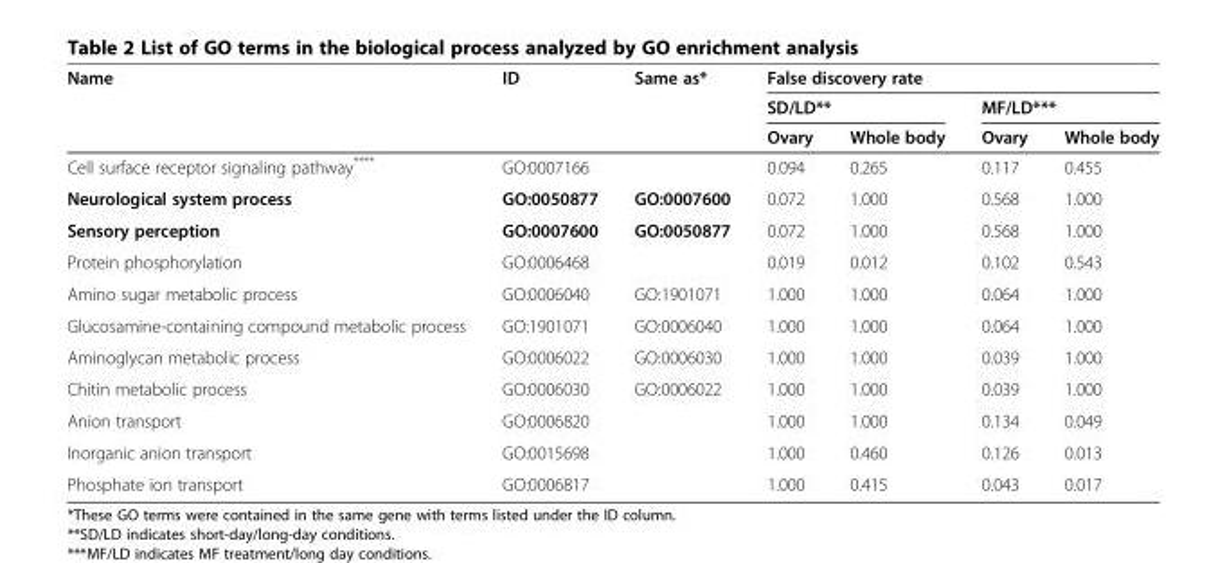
<table><thead><tr><td rowspan="3">Name</td><td rowspan="3">ID</td><td rowspan="3">Same as*</td><td colspan="4">False discovery rate</td></tr><tr><td colspan="2">SD/LD**</td><td colspan="2">MF/LD***</td></tr><tr><td>Ovary</td><td>Whole body</td><td>Ovary</td><td>Whole body</td></tr></thead><tbody><tr><td>Cell surface receptor signaling pathway****</td><td>GO:0007166</td><td></td><td>0.094</td><td>0.265</td><td>0.117</td><td>0.455</td></tr><tr><td>Neurological system process</td><td>GO:0050877</td><td>GO:0007600</td><td>0.072</td><td>1.000</td><td>0.568</td><td>1.000</td></tr><tr><td>Sensory perception</td><td>GO:0007600</td><td>GO:0050877</td><td>0.072</td><td>1.000</td><td>0.568</td><td>1.000</td></tr><tr><td>Protein phosphorylation</td><td>GO:0006468</td><td></td><td>0.019</td><td>0.012</td><td>0.102</td><td>0.543</td></tr><tr><td>Amino sugar metabolic process</td><td>GO:0006040</td><td>GO:1901071</td><td>1.000</td><td>1.000</td><td>0.064</td><td>1.000</td></tr><tr><td>Glucosamine-containing compound metabolic process</td><td>GO:1901071</td><td>GO:0006040</td><td>1.000</td><td>1.000</td><td>0.064</td><td>1.000</td></tr><tr><td>Aminoglycan metabolic process</td><td>GO:0006022</td><td>GO:0006030</td><td>1.000</td><td>1.000</td><td>0.039</td><td>1.000</td></tr><tr><td>Chitin metabolic process</td><td>GO:0006030</td><td>GO:0006022</td><td>1.000</td><td>1.000</td><td>0.039</td><td>1.000</td></tr><tr><td>Anion transport</td><td>GO:0006820</td><td></td><td>1.000</td><td>1.000</td><td>0.134</td><td>0.049</td></tr><tr><td>Inorganic anion transport</td><td>GO:0015698</td><td></td><td>1.000</td><td>0.460</td><td>0.126</td><td>0.013</td></tr><tr><td>Phosphate ion transport</td><td>GO:0006817</td><td></td><td>1.000</td><td>0.415</td><td>0.043</td><td>0.017</td></tr></tbody></table>